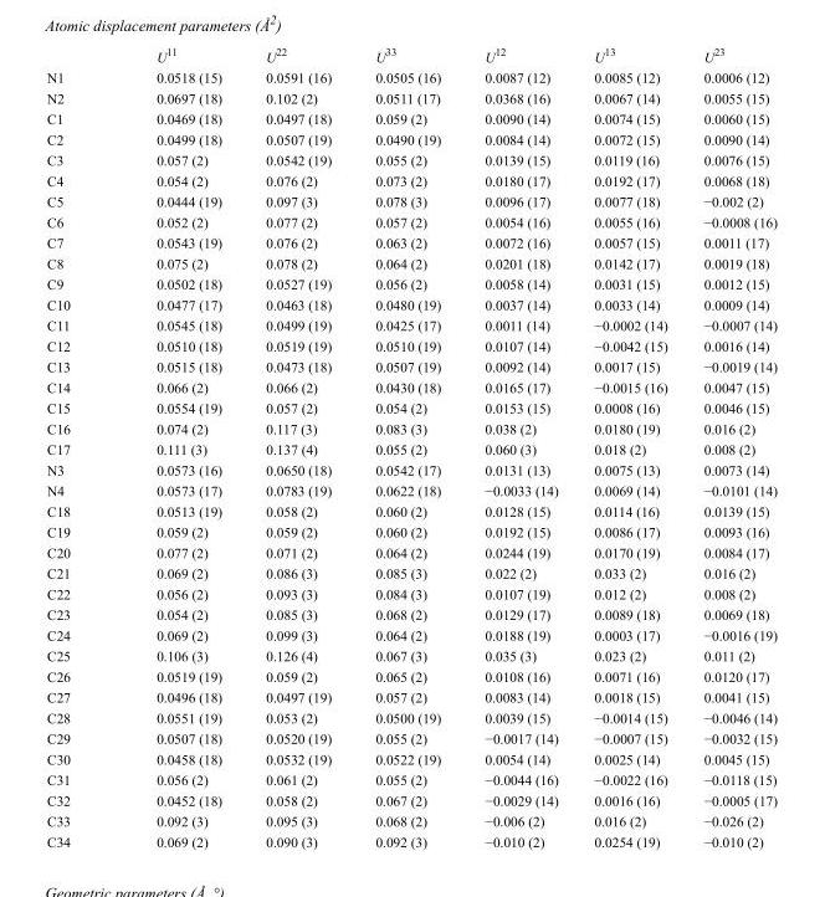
<table><thead><tr><td></td><td>U<sup>11</sup></td><td>U<sup>22</sup></td><td>U<sup>33</sup></td><td>U<sup>12</sup></td><td>U<sup>13</sup></td><td>U<sup>23</sup></td></tr></thead><tbody><tr><td>N1</td><td>0.0518 (15)</td><td>0.0591 (16)</td><td>0.0505 (16)</td><td>0.0087 (12)</td><td>0.0085 (12)</td><td>0.0006 (12)</td></tr><tr><td>N2</td><td>0.0697 (18)</td><td>0.102 (2)</td><td>0.0511 (17)</td><td>0.0368 (16)</td><td>0.0067 (14)</td><td>0.0055 (15)</td></tr><tr><td>C1</td><td>0.0469 (18)</td><td>0.0497 (18)</td><td>0.059 (2)</td><td>0.0090 (14)</td><td>0.0074 (15)</td><td>0.0060 (15)</td></tr><tr><td>C2</td><td>0.0499 (18)</td><td>0.0507 (19)</td><td>0.0490 (19)</td><td>0.0084 (14)</td><td>0.0072 (15)</td><td>0.0090 (14)</td></tr><tr><td>C3</td><td>0.057 (2)</td><td>0.0542 (19)</td><td>0.055 (2)</td><td>0.0139 (15)</td><td>0.0119 (16)</td><td>0.0076 (15)</td></tr><tr><td>C4</td><td>0.054 (2)</td><td>0.076 (2)</td><td>0.073 (2)</td><td>0.0180 (17)</td><td>0.0192 (17)</td><td>0.0068 (18)</td></tr><tr><td>C5</td><td>0.0444 (19)</td><td>0.097 (3)</td><td>0.078 (3)</td><td>0.0096 (17)</td><td>0.0077 (18)</td><td>−0.002 (2)</td></tr><tr><td>C6</td><td>0.052 (2)</td><td>0.077 (2)</td><td>0.057 (2)</td><td>0.0054 (16)</td><td>0.0055 (16)</td><td>−0.0008 (16)</td></tr><tr><td>C7</td><td>0.0543 (19)</td><td>0.076 (2)</td><td>0.063 (2)</td><td>0.0072 (16)</td><td>0.0057 (15)</td><td>0.0011 (17)</td></tr><tr><td>C8</td><td>0.075 (2)</td><td>0.078 (2)</td><td>0.064 (2)</td><td>0.0201 (18)</td><td>0.0142 (17)</td><td>0.0019 (18)</td></tr><tr><td>C9</td><td>0.0502 (18)</td><td>0.0527 (19)</td><td>0.056 (2)</td><td>0.0058 (14)</td><td>0.0031 (15)</td><td>0.0012 (15)</td></tr><tr><td>C10</td><td>0.0477 (17)</td><td>0.0463 (18)</td><td>0.0480 (19)</td><td>0.0037 (14)</td><td>0.0033 (14)</td><td>0.0009 (14)</td></tr><tr><td>C11</td><td>0.0545 (18)</td><td>0.0499 (19)</td><td>0.0425 (17)</td><td>0.0011 (14)</td><td>−0.0002 (14)</td><td>−0.0007 (14)</td></tr><tr><td>C12</td><td>0.0510 (18)</td><td>0.0519 (19)</td><td>0.0510 (19)</td><td>0.0107 (14)</td><td>−0.0042 (15)</td><td>0.0016 (14)</td></tr><tr><td>C13</td><td>0.0515 (18)</td><td>0.0473 (18)</td><td>0.0507 (19)</td><td>0.0092 (14)</td><td>0.0017 (15)</td><td>−0.0019 (14)</td></tr><tr><td>C14</td><td>0.066 (2)</td><td>0.066 (2)</td><td>0.0430 (18)</td><td>0.0165 (17)</td><td>−0.0015 (16)</td><td>0.0047 (15)</td></tr><tr><td>C15</td><td>0.0554 (19)</td><td>0.057 (2)</td><td>0.054 (2)</td><td>0.0153 (15)</td><td>0.0008 (16)</td><td>0.0046 (15)</td></tr><tr><td>C16</td><td>0.074 (2)</td><td>0.117 (3)</td><td>0.083 (3)</td><td>0.038 (2)</td><td>0.0180 (19)</td><td>0.016 (2)</td></tr><tr><td>C17</td><td>0.111 (3)</td><td>0.137 (4)</td><td>0.055 (2)</td><td>0.060 (3)</td><td>0.018 (2)</td><td>0.008 (2)</td></tr><tr><td>N3</td><td>0.0573 (16)</td><td>0.0650 (18)</td><td>0.0542 (17)</td><td>0.0131 (13)</td><td>0.0075 (13)</td><td>0.0073 (14)</td></tr><tr><td>N4</td><td>0.0573 (17)</td><td>0.0783 (19)</td><td>0.0622 (18)</td><td>−0.0033 (14)</td><td>0.0069 (14)</td><td>−0.0101 (14)</td></tr><tr><td>C18</td><td>0.0513 (19)</td><td>0.058 (2)</td><td>0.060 (2)</td><td>0.0128 (15)</td><td>0.0114 (16)</td><td>0.0139 (15)</td></tr><tr><td>C19</td><td>0.059 (2)</td><td>0.059 (2)</td><td>0.060 (2)</td><td>0.0192 (15)</td><td>0.0086 (17)</td><td>0.0093 (16)</td></tr><tr><td>C20</td><td>0.077 (2)</td><td>0.071 (2)</td><td>0.064 (2)</td><td>0.0244 (19)</td><td>0.0170 (19)</td><td>0.0084 (17)</td></tr><tr><td>C21</td><td>0.069 (2)</td><td>0.086 (3)</td><td>0.085 (3)</td><td>0.022 (2)</td><td>0.033 (2)</td><td>0.016 (2)</td></tr><tr><td>C22</td><td>0.056 (2)</td><td>0.093 (3)</td><td>0.084 (3)</td><td>0.0107 (19)</td><td>0.012 (2)</td><td>0.008 (2)</td></tr><tr><td>C23</td><td>0.054 (2)</td><td>0.085 (3)</td><td>0.068 (2)</td><td>0.0129 (17)</td><td>0.0089 (18)</td><td>0.0069 (18)</td></tr><tr><td>C24</td><td>0.069 (2)</td><td>0.099 (3)</td><td>0.064 (2)</td><td>0.0188 (19)</td><td>0.0003 (17)</td><td>−0.0016 (19)</td></tr><tr><td>C25</td><td>0.106 (3)</td><td>0.126 (4)</td><td>0.067 (3)</td><td>0.035 (3)</td><td>0.023 (2)</td><td>0.011 (2)</td></tr><tr><td>C26</td><td>0.0519 (19)</td><td>0.059 (2)</td><td>0.065 (2)</td><td>0.0108 (16)</td><td>0.0071 (16)</td><td>0.0120 (17)</td></tr><tr><td>C27</td><td>0.0496 (18)</td><td>0.0497 (19)</td><td>0.057 (2)</td><td>0.0083 (14)</td><td>0.0018 (15)</td><td>0.0041 (15)</td></tr><tr><td>C28</td><td>0.0551 (19)</td><td>0.053 (2)</td><td>0.0500 (19)</td><td>0.0039 (15)</td><td>−0.0014 (15)</td><td>−0.0046 (14)</td></tr><tr><td>C29</td><td>0.0507 (18)</td><td>0.0520 (19)</td><td>0.055 (2)</td><td>−0.0017 (14)</td><td>−0.0007 (15)</td><td>−0.0032 (15)</td></tr><tr><td>C30</td><td>0.0458 (18)</td><td>0.0532 (19)</td><td>0.0522 (19)</td><td>0.0054 (14)</td><td>0.0025 (14)</td><td>0.0045 (15)</td></tr><tr><td>C31</td><td>0.056 (2)</td><td>0.061 (2)</td><td>0.055 (2)</td><td>−0.0044 (16)</td><td>−0.0022 (16)</td><td>−0.0118 (15)</td></tr><tr><td>C32</td><td>0.0452 (18)</td><td>0.058 (2)</td><td>0.067 (2)</td><td>−0.0029 (14)</td><td>0.0016 (16)</td><td>−0.0005 (17)</td></tr><tr><td>C33</td><td>0.092 (3)</td><td>0.095 (3)</td><td>0.068 (2)</td><td>−0.006 (2)</td><td>0.016 (2)</td><td>−0.026 (2)</td></tr><tr><td>C34</td><td>0.069 (2)</td><td>0.090 (3)</td><td>0.092 (3)</td><td>−0.010 (2)</td><td>0.0254 (19)</td><td>−0.010 (2)</td></tr></tbody></table>